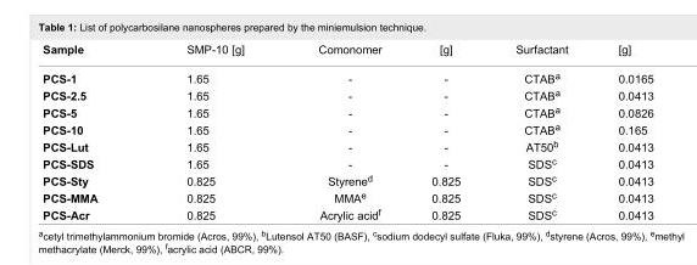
<table><tbody><tr><td>Sample</td><td>SMP-10 [g]</td><td>Comonomer</td><td>[g]</td><td>Surfactant</td><td>[g]</td></tr><tr><td>PCS-1</td><td>1.65</td><td>-</td><td>-</td><td>CTAB<sup>a</sup></td><td>0.0165</td></tr><tr><td>PCS-2.5</td><td>1.65</td><td>-</td><td>-</td><td>CTAB<sup>a</sup></td><td>0.0413</td></tr><tr><td>PCS-5</td><td>1.65</td><td>-</td><td>-</td><td>CTAB<sup>a</sup></td><td>0.0826</td></tr><tr><td>PCS-10</td><td>1.65</td><td>-</td><td>-</td><td>CTAB<sup>a</sup></td><td>0.165</td></tr><tr><td>PCS-Lut</td><td>1.65</td><td>-</td><td>-</td><td>AT50<sup>b</sup></td><td>0.0413</td></tr><tr><td>PCS-SDS</td><td>1.65</td><td>-</td><td>-</td><td>SDS<sup>c</sup></td><td>0.0413</td></tr><tr><td>PCS-Sty</td><td>0.825</td><td>Styrene<sup>d</sup></td><td>0.825</td><td>SDS<sup>c</sup></td><td>0.0413</td></tr><tr><td>PCS-MMA</td><td>0.825</td><td>MMA<sup>e</sup></td><td>0.825</td><td>SDS<sup>c</sup></td><td>0.0413</td></tr><tr><td>PCS-Acr</td><td>0.825</td><td>Acrylic acid<sup>f</sup></td><td>0.825</td><td>SDS<sup>c</sup></td><td>0.0413</td></tr></tbody></table>